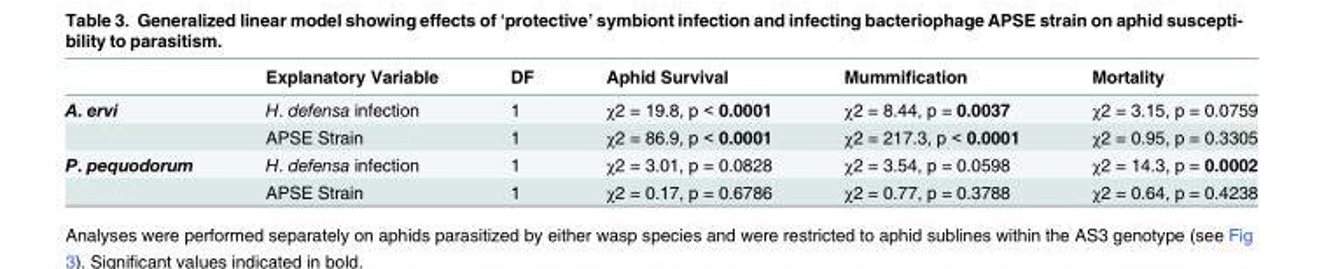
<table><thead><tr><td></td><td>Explanatory Variable</td><td>DF</td><td>Aphid Survival</td><td>Mummification</td><td>Mortality</td></tr></thead><tbody><tr><td rowspan="2">A. ervi</td><td>H. defensa infection</td><td>1</td><td>χ2 = 19.8, p &lt; 0.0001</td><td>χ2 = 8.44, p = 0.0037</td><td>χ2 = 3.15, p = 0.0759</td></tr><tr><td>APSE Strain</td><td>1</td><td>χ2 = 86.9, p &lt; 0.0001</td><td>χ2 = 217.3, p &lt; 0.0001</td><td>χ2 = 0.95, p = 0.3305</td></tr><tr><td rowspan="2">P. pequodorum</td><td>H. defensa infection</td><td>1</td><td>χ2 = 3.01, p = 0.0828</td><td>χ2 = 3.54, p = 0.0598</td><td>χ2 = 14.3, p = 0.0002</td></tr><tr><td>APSE Strain</td><td>1</td><td>χ2 = 0.17, p = 0.6786</td><td>χ2 = 0.77, p = 0.3788</td><td>χ2 = 0.64, p = 0.4238</td></tr></tbody></table>